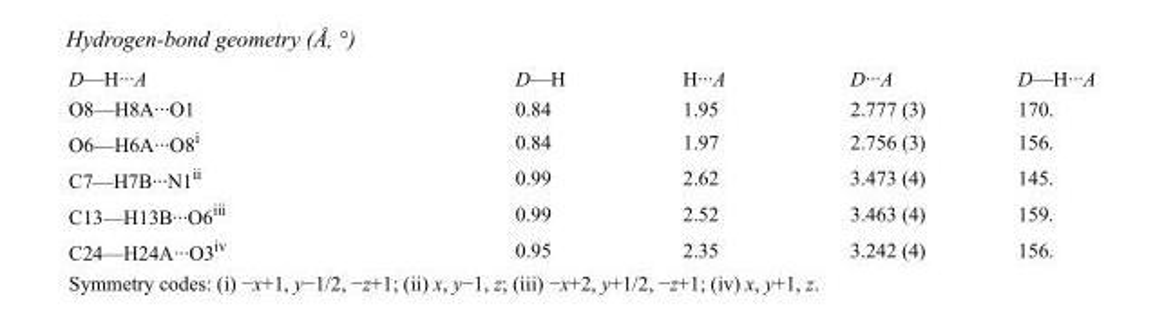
<table><tbody><tr><td>D—H···A</td><td>D—H</td><td>H···A</td><td>D···A</td><td>D—H···A</td></tr><tr><td>O8—H8A···O1</td><td>0.84</td><td>1.95</td><td>2.777 (3)</td><td>170.</td></tr><tr><td>O6—H6A···O8<sup>i</sup></td><td>0.84</td><td>1.97</td><td>2.756 (3)</td><td>156.</td></tr><tr><td>C7—H7B···N1<sup>ii</sup></td><td>0.99</td><td>2.62</td><td>3.473 (4)</td><td>145.</td></tr><tr><td>C13—H13B···O6<sup>iii</sup></td><td>0.99</td><td>2.52</td><td>3.463 (4)</td><td>159.</td></tr><tr><td>C24—H24A···O3<sup>iv</sup></td><td>0.95</td><td>2.35</td><td>3.242 (4)</td><td>156.</td></tr></tbody></table>